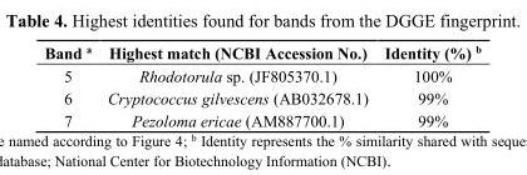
<table><thead><tr><td>Band <sup>a</sup></td><td>Highest match (NCBI Accession No.)</td><td>Identity (%) <sup>b</sup></td></tr></thead><tbody><tr><td>5</td><td>Rhodotorula sp. (JF805370.1)</td><td>100%</td></tr><tr><td>6</td><td>Cryptococcus gilvescens (AB032678.1)</td><td>99%</td></tr><tr><td>7</td><td>Pezoloma ericae (AM887700.1)</td><td>99%</td></tr></tbody></table>